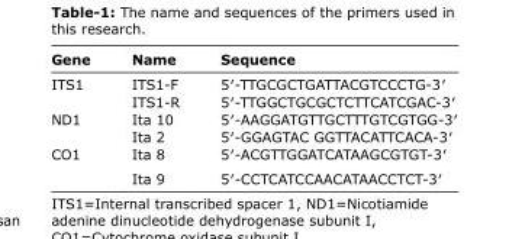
<table><thead><tr><td>Gene</td><td>Name</td><td>Sequence</td></tr></thead><tbody><tr><td rowspan="2">ITS1</td><td>ITS1-F</td><td>5′-TTGCGCTGATTACGTCCCTG-3′</td></tr><tr><td>ITS1-R</td><td>5′-TTGGCTGCGCTCTTCATCGAC-3′</td></tr><tr><td rowspan="2">ND1</td><td>Ita 10</td><td>5′-AAGGATGTTGCTTTGTCGTGG-3′</td></tr><tr><td>Ita 2</td><td>5′-GGAGTAC GGTTACATTCACA-3′</td></tr><tr><td rowspan="2">CO1</td><td>Ita 8</td><td>5′-ACGTTGGATCATAAGCGTGT-3′</td></tr><tr><td>Ita 9</td><td>5′-CCTCATCCAACATAACCTCT-3′</td></tr></tbody></table>